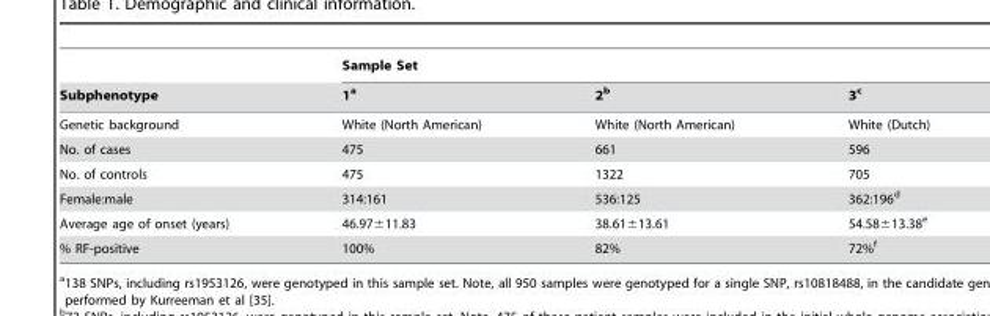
<table><thead><tr><td rowspan="2">Subphenotype</td><td colspan="3">Sample Set</td></tr><tr><td>1<sup>a</sup></td><td>2<sup>b</sup></td><td>3<sup>c</sup></td></tr></thead><tbody><tr><td>Genetic background</td><td>White (North American)</td><td>White (North American)</td><td>White (Dutch)</td></tr><tr><td>No. of cases</td><td>475</td><td>661</td><td>596</td></tr><tr><td>No. of controls</td><td>475</td><td>1322</td><td>705</td></tr><tr><td>Female:male</td><td>314:161</td><td>536:125</td><td>362:196<sup>d</sup></td></tr><tr><td>Average age of onset (years)</td><td>46.97±11.83</td><td>38.61±13.61</td><td>54.58±13.38<sup>e</sup></td></tr><tr><td>% RF-positive</td><td>100%</td><td>82%</td><td>72%<sup>f</sup></td></tr></tbody></table>